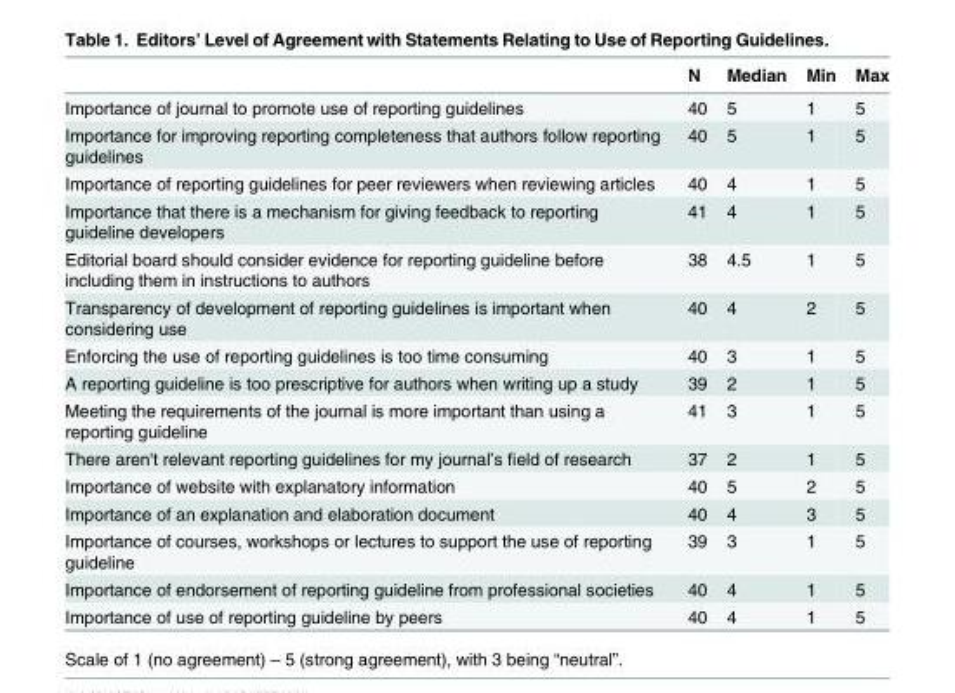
<table><thead><tr><td></td><td>N</td><td>Median</td><td>Min</td><td>Max</td></tr></thead><tbody><tr><td>Importance of journal to promote use of reporting guidelines</td><td>40</td><td>5</td><td>1</td><td>5</td></tr><tr><td>Importance for improving reporting completeness that authors follow reporting guidelines</td><td>40</td><td>5</td><td>1</td><td>5</td></tr><tr><td>Importance of reporting guidelines for peer reviewers when reviewing articles</td><td>40</td><td>4</td><td>1</td><td>5</td></tr><tr><td>Importance that there is a mechanism for giving feedback to reporting guideline developers</td><td>41</td><td>4</td><td>1</td><td>5</td></tr><tr><td>Editorial board should consider evidence for reporting guideline before including them in instructions to authors</td><td>38</td><td>4.5</td><td>1</td><td>5</td></tr><tr><td>Transparency of development of reporting guidelines is important when considering use</td><td>40</td><td>4</td><td>2</td><td>5</td></tr><tr><td>Enforcing the use of reporting guidelines is too time consuming</td><td>40</td><td>3</td><td>1</td><td>5</td></tr><tr><td>A reporting guideline is too prescriptive for authors when writing up a study</td><td>39</td><td>2</td><td>1</td><td>5</td></tr><tr><td>Meeting the requirements of the journal is more important than using a reporting guideline</td><td>41</td><td>3</td><td>1</td><td>5</td></tr><tr><td>There aren&#x27;t relevant reporting guidelines for my journal’s field of research</td><td>37</td><td>2</td><td>1</td><td>5</td></tr><tr><td>Importance of website with explanatory information</td><td>40</td><td>5</td><td>2</td><td>5</td></tr><tr><td>Importance of an explanation and elaboration document</td><td>40</td><td>4</td><td>3</td><td>5</td></tr><tr><td>Importance of courses, workshops or lectures to support the use of reporting guideline</td><td>39</td><td>3</td><td>1</td><td>5</td></tr><tr><td>Importance of endorsement of reporting guideline from professional societies</td><td>40</td><td>4</td><td>1</td><td>5</td></tr><tr><td>Importance of use of reporting guideline by peers</td><td>40</td><td>4</td><td>1</td><td>5</td></tr></tbody></table>